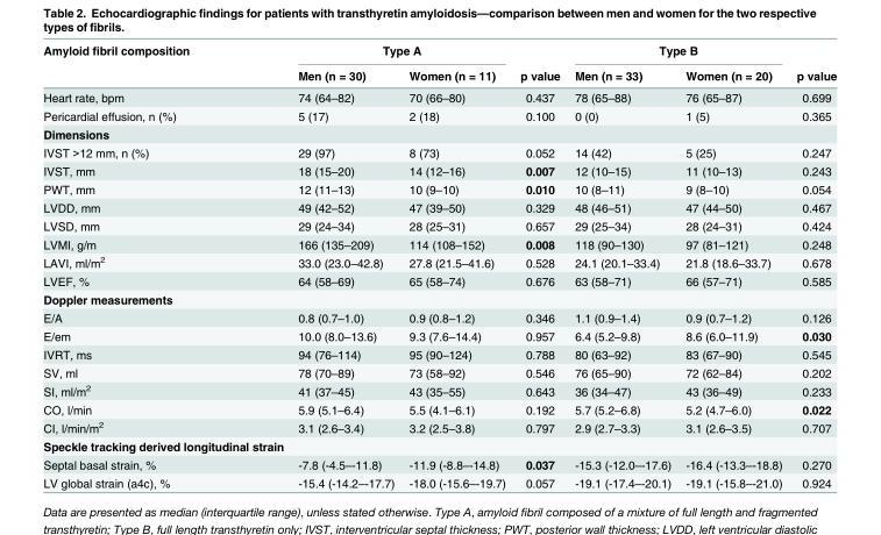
<table><thead><tr><td rowspan="2">Amyloid fibril composition</td><td colspan="2">Type A</td><td rowspan="2">p value</td><td colspan="2">Type B</td><td rowspan="2">p value</td></tr><tr><td>Men (n = 30)</td><td>Women (n = 11)</td><td>Men (n = 33)</td><td>Women (n = 20)</td></tr></thead><tbody><tr><td>Heart rate, bpm</td><td>74 (64–82)</td><td>70 (66–80)</td><td>0.437</td><td>78 (65–88)</td><td>76 (65–87)</td><td>0.699</td></tr><tr><td>Pericardial effusion, n (%)</td><td>5 (17)</td><td>2 (18)</td><td>0.100</td><td>0 (0)</td><td>1 (5)</td><td>0.365</td></tr><tr><td colspan="7">Dimensions</td></tr><tr><td>IVST &gt;12 mm, n (%)</td><td>29 (97)</td><td>8 (73)</td><td>0.052</td><td>14 (42)</td><td>5 (25)</td><td>0.247</td></tr><tr><td>IVST, mm</td><td>18 (15–20)</td><td>14 (12–16)</td><td>0.007</td><td>12 (10–15)</td><td>11 (10–13)</td><td>0.243</td></tr><tr><td>PWT, mm</td><td>12 (11–13)</td><td>10 (9–10)</td><td>0.010</td><td>10 (8–11)</td><td>9 (8–10)</td><td>0.054</td></tr><tr><td>LVDD, mm</td><td>49 (42–52)</td><td>47 (39–50)</td><td>0.329</td><td>48 (46–51)</td><td>47 (44–50)</td><td>0.467</td></tr><tr><td>LVSD, mm</td><td>29 (24–34)</td><td>28 (25–31)</td><td>0.657</td><td>29 (25–34)</td><td>28 (24–31)</td><td>0.424</td></tr><tr><td>LVMI, g/m</td><td>166 (135–209)</td><td>114 (108–152)</td><td>0.008</td><td>118 (90–130)</td><td>97 (81–121)</td><td>0.248</td></tr><tr><td>LAVI, ml/m<sup>2</sup></td><td>33.0 (23.0–42.8)</td><td>27.8 (21.5–41.6)</td><td>0.528</td><td>24.1 (20.1–33.4)</td><td>21.8 (18.6–33.7)</td><td>0.678</td></tr><tr><td>LVEF, %</td><td>64 (58–69)</td><td>65 (58–74)</td><td>0.676</td><td>63 (58–71)</td><td>66 (57–71)</td><td>0.585</td></tr><tr><td colspan="7">Doppler measurements</td></tr><tr><td>E/A</td><td>0.8 (0.7–1.0)</td><td>0.9 (0.8–1.2)</td><td>0.346</td><td>1.1 (0.9–1.4)</td><td>0.9 (0.7–1.2)</td><td>0.126</td></tr><tr><td>E/em</td><td>10.0 (8.0–13.6)</td><td>9.3 (7.6–14.4)</td><td>0.957</td><td>6.4 (5.2–9.8)</td><td>8.6 (6.0–11.9)</td><td>0.030</td></tr><tr><td>IVRT, ms</td><td>94 (76–114)</td><td>95 (90–124)</td><td>0.788</td><td>80 (63–92)</td><td>83 (67–90)</td><td>0.545</td></tr><tr><td>SV, ml</td><td>78 (70–89)</td><td>73 (58–92)</td><td>0.546</td><td>76 (65–90)</td><td>72 (62–84)</td><td>0.202</td></tr><tr><td>SI, ml/m<sup>2</sup></td><td>41 (37–45)</td><td>43 (35–55)</td><td>0.643</td><td>36 (34–47)</td><td>43 (36–49)</td><td>0.233</td></tr><tr><td>CO, l/min</td><td>5.9 (5.1–6.4)</td><td>5.5 (4.1–6.1)</td><td>0.192</td><td>5.7 (5.2–6.8)</td><td>5.2 (4.7–6.0)</td><td>0.022</td></tr><tr><td>CI, l/min/m<sup>2</sup></td><td>3.1 (2.6–3.4)</td><td>3.2 (2.5–3.8)</td><td>0.797</td><td>2.9 (2.7–3.3)</td><td>3.1 (2.6–3.5)</td><td>0.707</td></tr><tr><td colspan="7">Speckle tracking derived longitudinal strain</td></tr><tr><td>Septal basal strain, %</td><td>-7.8 (-4.5–-11.8)</td><td>-11.9 (-8.8–-14.8)</td><td>0.037</td><td>-15.3 (-12.0–-17.6)</td><td>-16.4 (-13.3–-18.8)</td><td>0.270</td></tr><tr><td>LV global strain (a4c), %</td><td>-15.4 (-14.2–-17.7)</td><td>-18.0 (-15.6–-19.7)</td><td>0.057</td><td>-19.1 (-17.4–-20.1)</td><td>-19.1 (-15.8–-21.0)</td><td>0.924</td></tr></tbody></table>